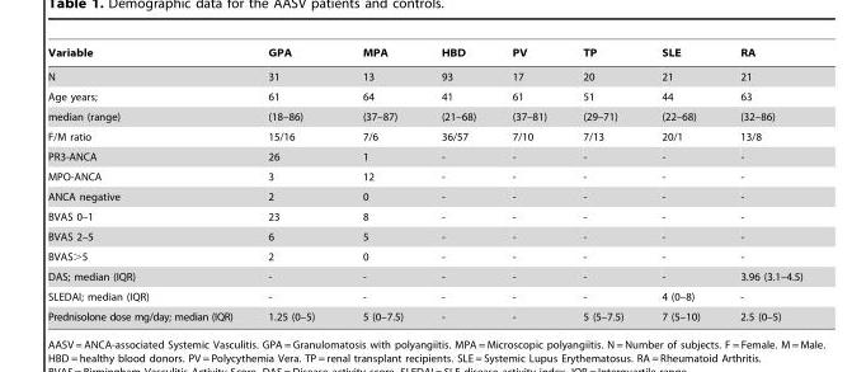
<table><thead><tr><td>Variable</td><td>GPA</td><td>MPA</td><td>HBD</td><td>PV</td><td>TP</td><td>SLE</td><td>RA</td></tr></thead><tbody><tr><td>N</td><td>31</td><td>13</td><td>93</td><td>17</td><td>20</td><td>21</td><td>21</td></tr><tr><td>Age years;</td><td>61</td><td>64</td><td>41</td><td>61</td><td>51</td><td>44</td><td>63</td></tr><tr><td>median (range)</td><td>(18–86)</td><td>(37–87)</td><td>(21–68)</td><td>(37–81)</td><td>(29–71)</td><td>(22–68)</td><td>(32–86)</td></tr><tr><td>F/M ratio</td><td>15/16</td><td>7/6</td><td>36/57</td><td>7/10</td><td>7/13</td><td>20/1</td><td>13/8</td></tr><tr><td>PR3-ANCA</td><td>26</td><td>1</td><td>-</td><td>-</td><td>-</td><td>-</td><td>-</td></tr><tr><td>MPO-ANCA</td><td>3</td><td>12</td><td>-</td><td>-</td><td>-</td><td>-</td><td>-</td></tr><tr><td>ANCA negative</td><td>2</td><td>0</td><td>-</td><td>-</td><td>-</td><td>-</td><td>-</td></tr><tr><td>BVAS 0–1</td><td>23</td><td>8</td><td>-</td><td>-</td><td>-</td><td>-</td><td>-</td></tr><tr><td>BVAS 2–5</td><td>6</td><td>5</td><td>-</td><td>-</td><td>-</td><td>-</td><td>-</td></tr><tr><td>BVAS&gt;5</td><td>2</td><td>0</td><td>-</td><td>-</td><td>-</td><td>-</td><td>-</td></tr><tr><td>DAS; median (IQR)</td><td>-</td><td>-</td><td>-</td><td>-</td><td>-</td><td>-</td><td>3.96 (3.1–4.5)</td></tr><tr><td>SLEDAI; median (IQR)</td><td>-</td><td>-</td><td>-</td><td>-</td><td>-</td><td>4 (0–8)</td><td>-</td></tr><tr><td>Prednisolone dose mg/day; median (IQR)</td><td>1.25 (0–5)</td><td>5 (0–7.5)</td><td>-</td><td>-</td><td>5 (5–7.5)</td><td>7 (5–10)</td><td>2.5 (0–5)</td></tr></tbody></table>